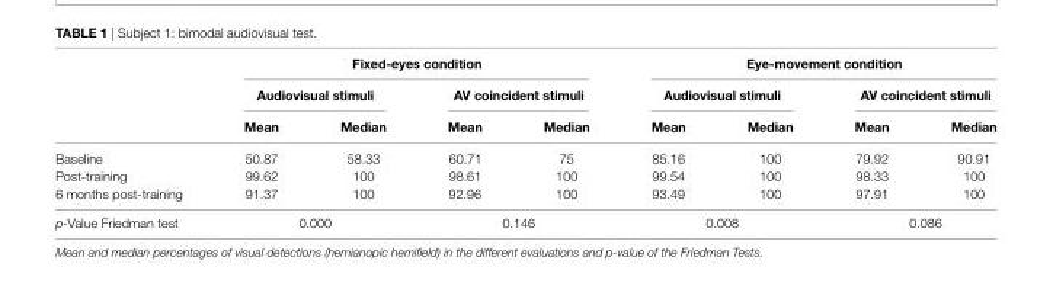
<table><thead><tr><td rowspan="3"></td><td colspan="4">Fixed-eyes condition</td><td colspan="4">eye-movement condition</td></tr><tr><td colspan="2">Audiovisual stimuli</td><td colspan="2">AV coincident stimuli</td><td colspan="2">Audiovisual stimuli</td><td colspan="2">AV coincident stimuli</td></tr><tr><td>Mean</td><td>Median</td><td>Mean</td><td>Median</td><td>Mean</td><td>Median</td><td>Mean</td><td>Median</td></tr></thead><tbody><tr><td>Baseline</td><td>50.87</td><td>58.33</td><td>60.71</td><td>75</td><td>85.16</td><td>100</td><td>79.92</td><td>90.91</td></tr><tr><td>Post-training</td><td>99.62</td><td>100</td><td>98.61</td><td>100</td><td>99.54</td><td>100</td><td>98.33</td><td>100</td></tr><tr><td>6 months post-training</td><td>91.37</td><td>100</td><td>92.96</td><td>100</td><td>93.49</td><td>100</td><td>97.91</td><td>100</td></tr><tr><td>p-Value Friedman test</td><td colspan="2">0.000</td><td colspan="2">0.146</td><td colspan="2">0.008</td><td colspan="2">0.086</td></tr></tbody></table>